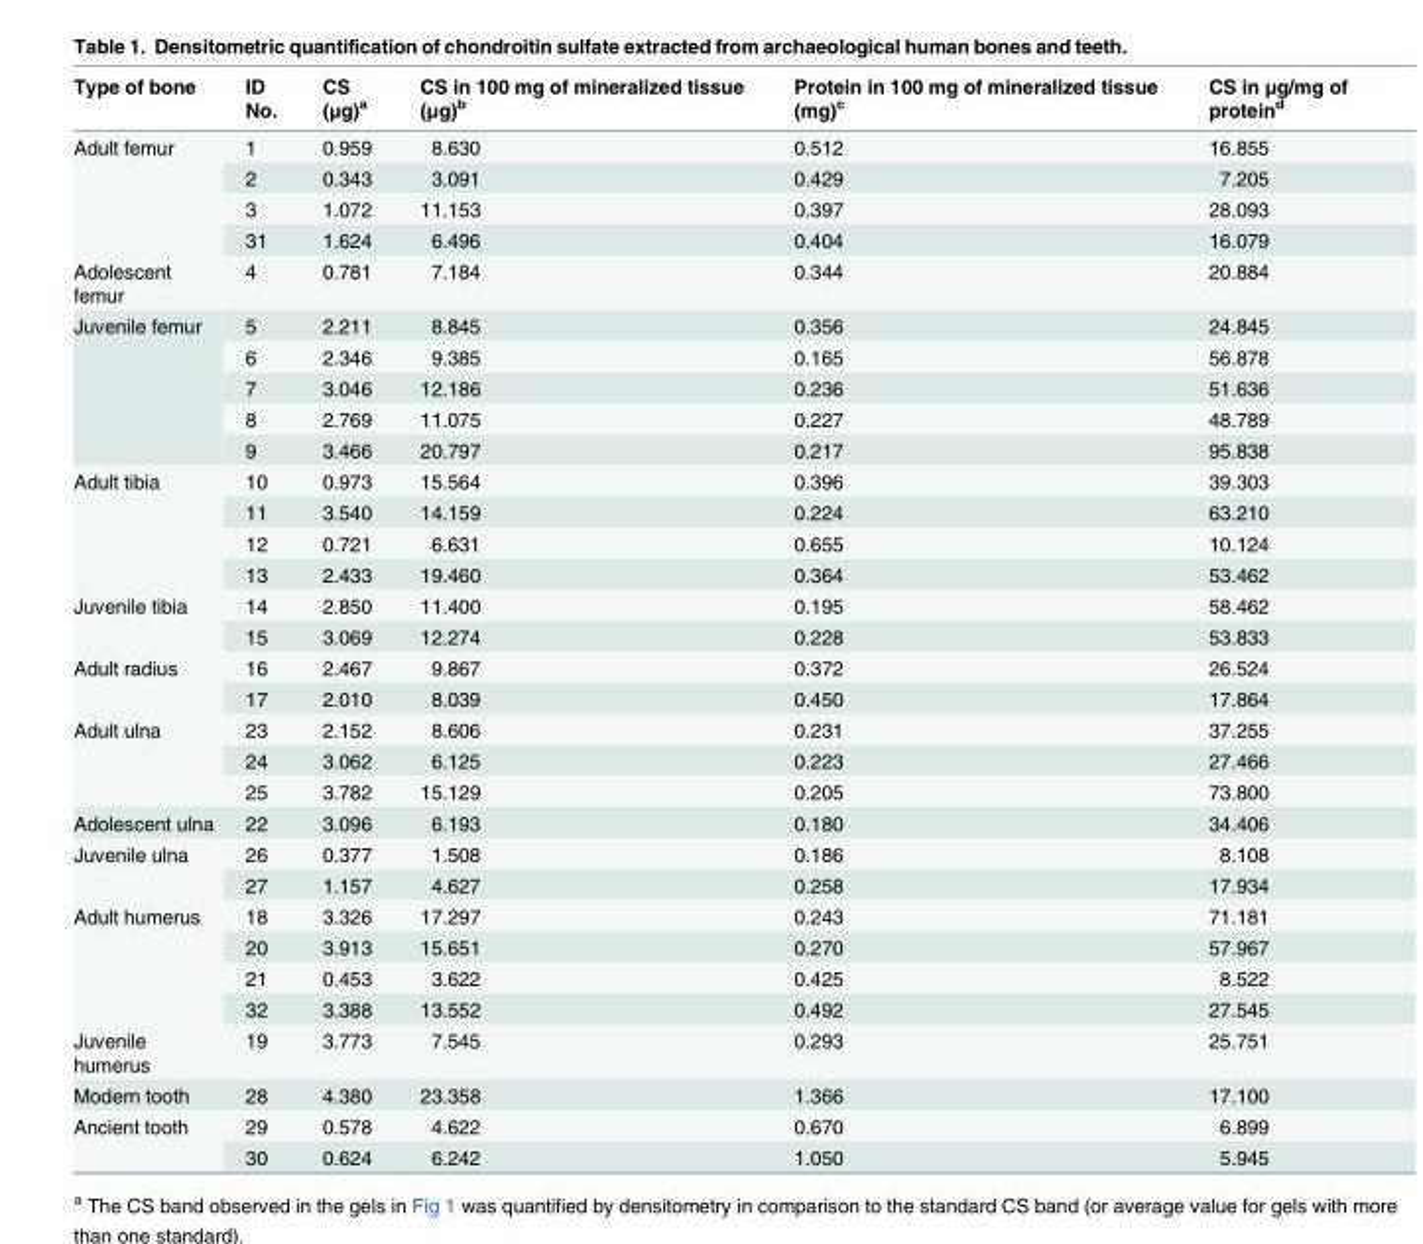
<table><thead><tr><td>Type of bone</td><td>ID No.</td><td>CS (μg)<sup>a</sup></td><td>CS in 100 mg of mineralized tissue (μg)<sup>b</sup></td><td>Protein in 100 mg of mineralized tissue (mg)<sup>c</sup></td><td>CS in μg/mg of protein<sup>d</sup></td></tr></thead><tbody><tr><td rowspan="4">Adult femur</td><td>1</td><td>0.959</td><td>8.630</td><td>0.512</td><td>16.855</td></tr><tr><td>2</td><td>0.343</td><td>3.091</td><td>0.429</td><td>7.205</td></tr><tr><td>3</td><td>1.072</td><td>11.153</td><td>0.397</td><td>28.093</td></tr><tr><td>31</td><td>1.624</td><td>6.496</td><td>0.404</td><td>16.079</td></tr><tr><td>Adolescent femur</td><td>4</td><td>0.781</td><td>7.184</td><td>0.344</td><td>20.884</td></tr><tr><td rowspan="5">Juvenile femur</td><td>5</td><td>2.211</td><td>8.845</td><td>0.356</td><td>24.845</td></tr><tr><td>6</td><td>2.346</td><td>9.385</td><td>0.165</td><td>56.878</td></tr><tr><td>7</td><td>3.046</td><td>12.186</td><td>0.236</td><td>51.636</td></tr><tr><td>8</td><td>2.769</td><td>11.075</td><td>0.227</td><td>48.789</td></tr><tr><td>9</td><td>3.466</td><td>20.797</td><td>0.217</td><td>95.838</td></tr><tr><td rowspan="4">Adult tibia</td><td>10</td><td>0.973</td><td>15.564</td><td>0.396</td><td>39.303</td></tr><tr><td>11</td><td>3.540</td><td>14.159</td><td>0.224</td><td>63.210</td></tr><tr><td>12</td><td>0.721</td><td>6.631</td><td>0.655</td><td>10.124</td></tr><tr><td>13</td><td>2.433</td><td>19.460</td><td>0.364</td><td>53.462</td></tr><tr><td rowspan="2">Juvenile tibia</td><td>14</td><td>2.850</td><td>11.400</td><td>0.195</td><td>58.462</td></tr><tr><td>15</td><td>3.069</td><td>12.274</td><td>0.228</td><td>53.833</td></tr><tr><td rowspan="2">Adult radius</td><td>16</td><td>2.467</td><td>9.867</td><td>0.372</td><td>26.524</td></tr><tr><td>17</td><td>2.010</td><td>8.039</td><td>0.450</td><td>17.864</td></tr><tr><td rowspan="3">Adult ulna</td><td>23</td><td>2.152</td><td>8.606</td><td>0.231</td><td>37.255</td></tr><tr><td>24</td><td>3.062</td><td>6.125</td><td>0.223</td><td>27.466</td></tr><tr><td>25</td><td>3.782</td><td>15.129</td><td>0.205</td><td>73.800</td></tr><tr><td>Adolescent ulna</td><td>22</td><td>3.096</td><td>6.193</td><td>0.180</td><td>34.406</td></tr><tr><td rowspan="2">Juvenile ulna</td><td>26</td><td>0.377</td><td>1.508</td><td>0.186</td><td>8.108</td></tr><tr><td>27</td><td>1.157</td><td>4.627</td><td>0.258</td><td>17.934</td></tr><tr><td rowspan="4">Adult humerus</td><td>18</td><td>3.326</td><td>17.297</td><td>0.243</td><td>71.181</td></tr><tr><td>20</td><td>3.913</td><td>15.651</td><td>0.270</td><td>57.967</td></tr><tr><td>21</td><td>0.453</td><td>3.622</td><td>0.425</td><td>8.522</td></tr><tr><td>32</td><td>3.388</td><td>13.552</td><td>0.492</td><td>27.545</td></tr><tr><td>Juvenile humerus</td><td>19</td><td>3.773</td><td>7.545</td><td>0.293</td><td>25.751</td></tr><tr><td>Modern tooth</td><td>28</td><td>4.380</td><td>23.358</td><td>1.366</td><td>17.100</td></tr><tr><td rowspan="2">Ancient tooth</td><td>29</td><td>0.578</td><td>4.622</td><td>0.670</td><td>6.899</td></tr><tr><td>30</td><td>0.624</td><td>6.242</td><td>1.050</td><td>5.945</td></tr></tbody></table>